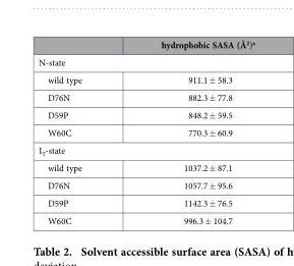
<table><thead><tr><td></td><td>hydrophobic SASA (Å<sup>2</sup>)<sup>a</sup></td></tr></thead><tbody><tr><td colspan="2">N-state</td></tr><tr><td>wild type</td><td>911.1 ± 58.3</td></tr><tr><td>D76N</td><td>882.3 ± 77.8</td></tr><tr><td>D59P</td><td>848.2 ± 59.5</td></tr><tr><td>W60C</td><td>770.3 ± 60.9</td></tr><tr><td colspan="2">I<sub>T</sub>-state</td></tr><tr><td>wild type</td><td>1037.2 ± 87.1</td></tr><tr><td>D76N</td><td>1057.7 ± 95.6</td></tr><tr><td>D59P</td><td>1142.3 ± 76.5</td></tr><tr><td>W60C</td><td>996.3 ± 104.7</td></tr></tbody></table>